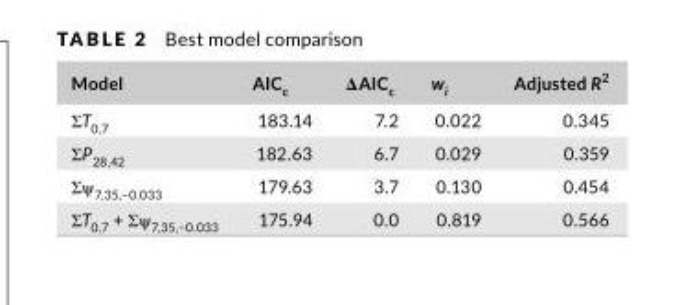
<table><thead><tr><td>Model</td><td>AIC<sub>c</sub></td><td>ΔAIC<sub>c</sub></td><td>w<sub>i</sub></td><td>Adjusted R<sup>2</sup></td></tr></thead><tbody><tr><td>ΣT<sub>0,7</sub></td><td>183.14</td><td>7.2</td><td>0.022</td><td>0.345</td></tr><tr><td>ΣP<sub>28,42</sub></td><td>182.63</td><td>6.7</td><td>0.029</td><td>0.359</td></tr><tr><td>Σψ<sub>7,35,−0.033</sub></td><td>179.63</td><td>3.7</td><td>0.130</td><td>0.454</td></tr><tr><td>ΣT<sub>0,7</sub> + Σψ<sub>7,35,−0.033</sub></td><td>175.94</td><td>0.0</td><td>0.819</td><td>0.566</td></tr></tbody></table>